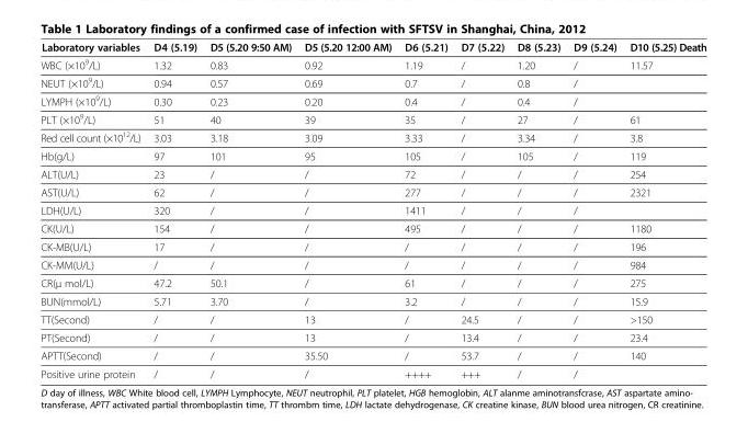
<table><thead><tr><td>Laboratory variables</td><td>D4 (5.19)</td><td>D5 (5.20 9:50 AM)</td><td>D5 (5.20 12:00 AM)</td><td>D6 (5.21)</td><td>D7 (5.22)</td><td>D8 (5.23)</td><td>D9 (5.24)</td><td>D10 (5.25) Death</td></tr></thead><tbody><tr><td>WBC (×10<sup>9</sup>/L)</td><td>1.32</td><td>0.83</td><td>0.92</td><td>1.19</td><td>/</td><td>1.20</td><td>/</td><td>11.57</td></tr><tr><td>NEUT (×10<sup>9</sup>/L)</td><td>0.94</td><td>0.57</td><td>0.69</td><td>0.7</td><td>/</td><td>0.8</td><td>/</td><td></td></tr><tr><td>LYMPH (×10<sup>9</sup>/L)</td><td>0.30</td><td>0.23</td><td>0.20</td><td>0.4</td><td>/</td><td>0.4</td><td>/</td><td></td></tr><tr><td>PLT (×10<sup>9</sup>/L)</td><td>51</td><td>40</td><td>39</td><td>35</td><td>/</td><td>27</td><td>/</td><td>61</td></tr><tr><td>Red cell count (×10<sup>12</sup>/L)</td><td>3.03</td><td>3.18</td><td>3.09</td><td>3.33</td><td>/</td><td>3.34</td><td>/</td><td>3.8</td></tr><tr><td>Hb(g/L)</td><td>97</td><td>101</td><td>95</td><td>105</td><td>/</td><td>105</td><td>/</td><td>119</td></tr><tr><td>ALT(U/L)</td><td>23</td><td>/</td><td>/</td><td>72</td><td>/</td><td>/</td><td>/</td><td>254</td></tr><tr><td>AST(U/L)</td><td>62</td><td>/</td><td>/</td><td>277</td><td>/</td><td>/</td><td>/</td><td>2321</td></tr><tr><td>LDH(U/L)</td><td>320</td><td>/</td><td>/</td><td>1411</td><td>/</td><td>/</td><td>/</td><td></td></tr><tr><td>CK(U/L)</td><td>154</td><td>/</td><td>/</td><td>495</td><td>/</td><td>/</td><td>/</td><td>1180</td></tr><tr><td>CK-MB(U/L)</td><td>17</td><td>/</td><td>/</td><td>/</td><td>/</td><td>/</td><td>/</td><td>196</td></tr><tr><td>CK-MM(U/L)</td><td>/</td><td>/</td><td>/</td><td>/</td><td>/</td><td>/</td><td>/</td><td>984</td></tr><tr><td>CR(μ mol/L)</td><td>47.2</td><td>50.1</td><td>/</td><td>61</td><td>/</td><td>/</td><td>/</td><td>275</td></tr><tr><td>BUN(mmol/L)</td><td>5.71</td><td>3.70</td><td>/</td><td>3.2</td><td>/</td><td>/</td><td>/</td><td>15.9</td></tr><tr><td>TT(Second)</td><td>/</td><td>/</td><td>13</td><td>/</td><td>24.5</td><td>/</td><td>/</td><td>&gt;150</td></tr><tr><td>PT(Second)</td><td>/</td><td>/</td><td>13</td><td>/</td><td>13.4</td><td>/</td><td>/</td><td>23.4</td></tr><tr><td>APTT(Second)</td><td>/</td><td>/</td><td>35.50</td><td>/</td><td>53.7</td><td>/</td><td>/</td><td>140</td></tr><tr><td>Positive urine protein</td><td>/</td><td>/</td><td>/</td><td>++++</td><td>+++</td><td>/</td><td>/</td><td></td></tr></tbody></table>